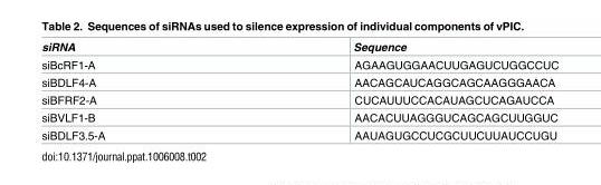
<table><thead><tr><td>siRNA</td><td>Sequence</td></tr></thead><tbody><tr><td>siBcRF1-A</td><td>AGAAGUGGAACUUGAGUCUGGCCUC</td></tr><tr><td>siBDLF4-A</td><td>AACAGCAUCAGGCAGCAAGGGAACA</td></tr><tr><td>siBFRF2-A</td><td>CUCAUUUCCACAUAGCUCAGAUCCA</td></tr><tr><td>siBVLF1-B</td><td>AACACUUAGGGUCAGCAGCUUGGUC</td></tr><tr><td>siBDLF3.5-A</td><td>AAUAGUGCCUCGCUUCUUAUCCUGU</td></tr></tbody></table>